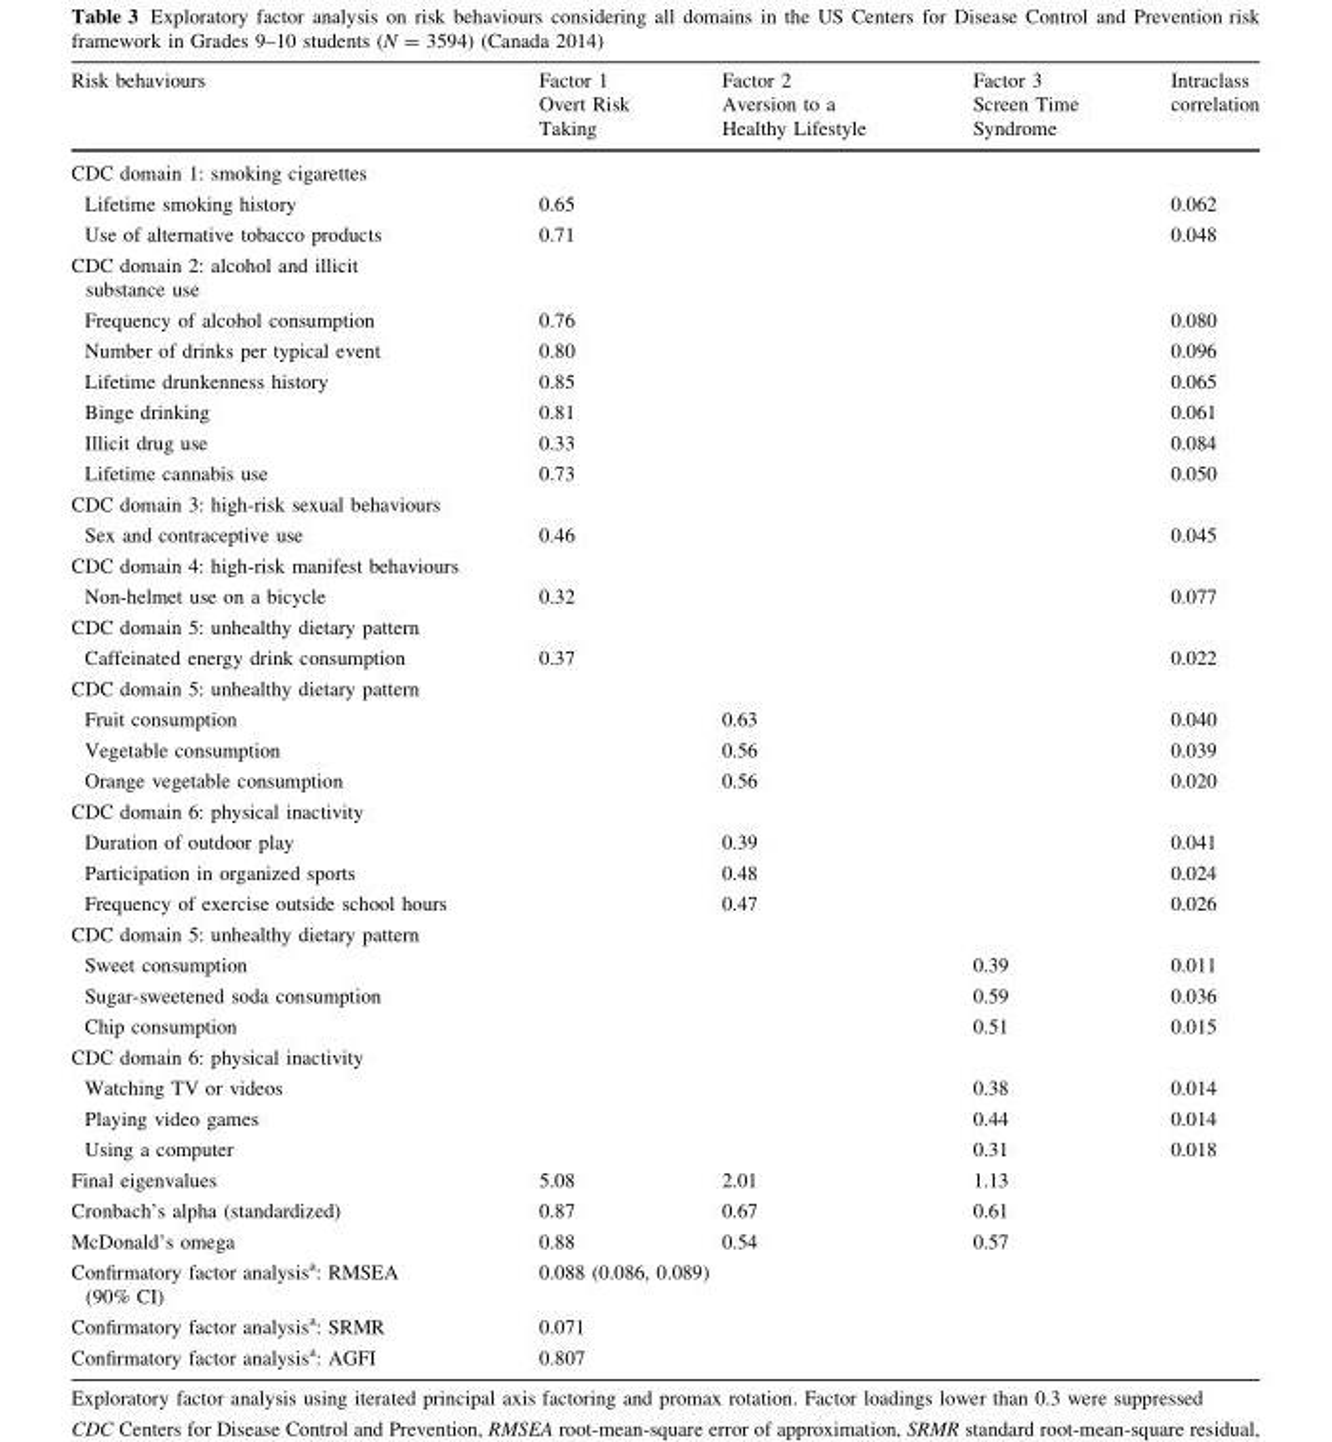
<table><thead><tr><td>Risk behaviours</td><td>Factor 1 Overt Risk Taking</td><td>Factor 2 Aversion to a Healthy Lifestyle</td><td>Factor 3 Screen Time Syndrome</td><td>Intraclass correlation</td></tr></thead><tbody><tr><td colspan="5">CDC domain 1: smoking cigarettes</td></tr><tr><td>Lifetime smoking history</td><td>0.65</td><td></td><td></td><td>0.062</td></tr><tr><td>Use of alternative tobacco products</td><td>0.71</td><td></td><td></td><td>0.048</td></tr><tr><td colspan="5">CDC domain 2: alcohol and illicit substance use</td></tr><tr><td>Frequency of alcohol consumption</td><td>0.76</td><td></td><td></td><td>0.080</td></tr><tr><td>Number of drinks per typical event</td><td>0.80</td><td></td><td></td><td>0.096</td></tr><tr><td>Lifetime drunkenness history</td><td>0.85</td><td></td><td></td><td>0.065</td></tr><tr><td>Binge drinking</td><td>0.81</td><td></td><td></td><td>0.061</td></tr><tr><td>Illicit drug use</td><td>0.33</td><td></td><td></td><td>0.084</td></tr><tr><td>Lifetime cannabis use</td><td>0.73</td><td></td><td></td><td>0.050</td></tr><tr><td colspan="5">CDC domain 3: high-risk sexual behaviours</td></tr><tr><td>Sex and contraceptive use</td><td>0.46</td><td></td><td></td><td>0.045</td></tr><tr><td colspan="5">CDC domain 4: high-risk manifest behaviours</td></tr><tr><td>Non-helmet use on a bicycle</td><td>0.32</td><td></td><td></td><td>0.077</td></tr><tr><td colspan="5">CDC domain 5: unhealthy dietary pattern</td></tr><tr><td>Caffeinated energy drink consumption</td><td>0.37</td><td></td><td></td><td>0.022</td></tr><tr><td colspan="5">CDC domain 5: unhealthy dietary pattern</td></tr><tr><td>Fruit consumption</td><td></td><td>0.63</td><td></td><td>0.040</td></tr><tr><td>Vegetable consumption</td><td></td><td>0.56</td><td></td><td>0.039</td></tr><tr><td>Orange vegetable consumption</td><td></td><td>0.56</td><td></td><td>0.020</td></tr><tr><td colspan="5">CDC domain 6: physical inactivity</td></tr><tr><td>Duration of outdoor play</td><td></td><td>0.39</td><td></td><td>0.041</td></tr><tr><td>Participation in organized sports</td><td></td><td>0.48</td><td></td><td>0.024</td></tr><tr><td>Frequency of exercise outside school hours</td><td></td><td>0.47</td><td></td><td>0.026</td></tr><tr><td colspan="5">CDC domain 5: unhealthy dietary pattern</td></tr><tr><td>Sweet consumption</td><td></td><td></td><td>0.39</td><td>0.011</td></tr><tr><td>Sugar-sweetened soda consumption</td><td></td><td></td><td>0.59</td><td>0.036</td></tr><tr><td>Chip consumption</td><td></td><td></td><td>0.51</td><td>0.015</td></tr><tr><td colspan="5">CDC domain 6: physical inactivity</td></tr><tr><td>Watching TV or videos</td><td></td><td></td><td>0.38</td><td>0.014</td></tr><tr><td>Playing video games</td><td></td><td></td><td>0.44</td><td>0.014</td></tr><tr><td>Using a computer</td><td></td><td></td><td>0.31</td><td>0.018</td></tr><tr><td>Final eigenvalues</td><td>5.08</td><td>2.01</td><td>1.13</td><td></td></tr><tr><td>Cronbach’s alpha (standardized)</td><td>0.87</td><td>0.67</td><td>0.61</td><td></td></tr><tr><td>McDonald’s omega</td><td>0.88</td><td>0.54</td><td>0.57</td><td></td></tr><tr><td>Confirmatory factor analysis<sup>a</sup>: RMSEA (90% CI)</td><td colspan="4">0.088 (0.086, 0.089)</td></tr><tr><td>Confirmatory factor analysis<sup>a</sup>: SRMR</td><td colspan="3">0.071</td><td></td></tr><tr><td>Confirmatory factor analysis<sup>a</sup>: AGFI</td><td colspan="3">0.807</td><td></td></tr></tbody></table>